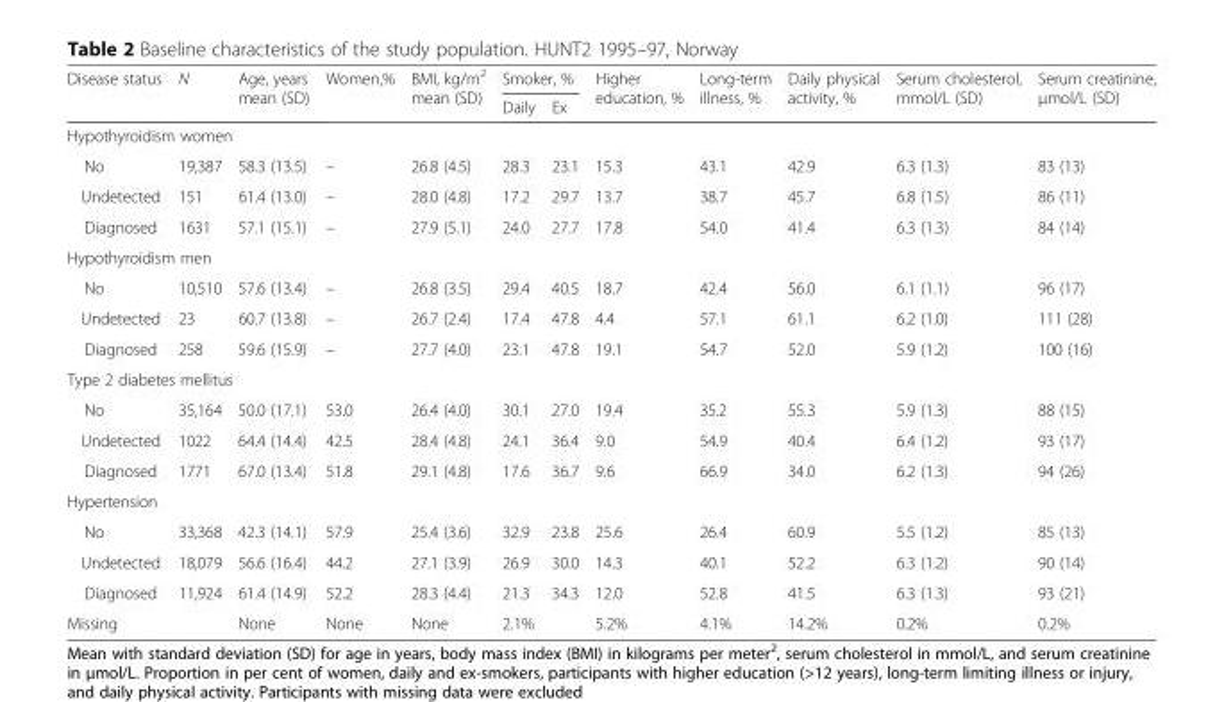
<table><thead><tr><td rowspan="2">Disease status</td><td rowspan="2">N</td><td rowspan="2">Age, years mean (SD)</td><td rowspan="2">Women,%</td><td rowspan="2">BMI, kg/m<sup>2</sup> mean (SD)</td><td colspan="2">Smoker, %</td><td rowspan="2">Higher education, %</td><td rowspan="2">Long-term illness, %</td><td rowspan="2">Daily physical activity, %</td><td rowspan="2">Serum cholesterol, mmol/L (SD)</td><td rowspan="2">Serum creatinine, μmol/L (SD)</td></tr><tr><td>Daily</td><td>Ex</td></tr></thead><tbody><tr><td colspan="12">Hypothyroidism women</td></tr><tr><td>No</td><td>19,387</td><td>58.3 (13.5)</td><td>–</td><td>26.8 (4.5)</td><td>28.3</td><td>23.1</td><td>15.3</td><td>43.1</td><td>42.9</td><td>6.3 (1.3)</td><td>83 (13)</td></tr><tr><td>Undetected</td><td>151</td><td>61.4 (13.0)</td><td>–</td><td>28.0 (4.8)</td><td>17.2</td><td>29.7</td><td>13.7</td><td>38.7</td><td>45.7</td><td>6.8 (1.5)</td><td>86 (11)</td></tr><tr><td>Diagnosed</td><td>1631</td><td>57.1 (15.1)</td><td>–</td><td>27.9 (5.1)</td><td>24.0</td><td>27.7</td><td>17.8</td><td>54.0</td><td>41.4</td><td>6.3 (1.3)</td><td>84 (14)</td></tr><tr><td colspan="12">Hypothyroidism men</td></tr><tr><td>No</td><td>10,510</td><td>57.6 (13.4)</td><td>–</td><td>26.8 (3.5)</td><td>29.4</td><td>40.5</td><td>18.7</td><td>42.4</td><td>56.0</td><td>6.1 (1.1)</td><td>96 (17)</td></tr><tr><td>Undetected</td><td>23</td><td>60.7 (13.8)</td><td>–</td><td>26.7 (2.4)</td><td>17.4</td><td>47.8</td><td>4.4</td><td>57.1</td><td>61.1</td><td>6.2 (1.0)</td><td>111 (28)</td></tr><tr><td>Diagnosed</td><td>258</td><td>59.6 (15.9)</td><td>–</td><td>27.7 (4.0)</td><td>23.1</td><td>47.8</td><td>19.1</td><td>54.7</td><td>52.0</td><td>5.9 (1.2)</td><td>100 (16)</td></tr><tr><td colspan="12">Type 2 diabetes mellitus</td></tr><tr><td>No</td><td>35,164</td><td>50.0 (17.1)</td><td>53.0</td><td>26.4 (4.0)</td><td>30.1</td><td>27.0</td><td>19.4</td><td>35.2</td><td>55.3</td><td>5.9 (1.3)</td><td>88 (15)</td></tr><tr><td>Undetected</td><td>1022</td><td>64.4 (14.4)</td><td>42.5</td><td>28.4 (4.8)</td><td>24.1</td><td>36.4</td><td>9.0</td><td>54.9</td><td>40.4</td><td>6.4 (1.2)</td><td>93 (17)</td></tr><tr><td>Diagnosed</td><td>1771</td><td>67.0 (13.4)</td><td>51.8</td><td>29.1 (4.8)</td><td>17.6</td><td>36.7</td><td>9.6</td><td>66.9</td><td>34.0</td><td>6.2 (1.3)</td><td>94 (26)</td></tr><tr><td colspan="12">Hypertension</td></tr><tr><td>No</td><td>33,368</td><td>42.3 (14.1)</td><td>57.9</td><td>25.4 (3.6)</td><td>32.9</td><td>23.8</td><td>25.6</td><td>26.4</td><td>60.9</td><td>5.5 (1.2)</td><td>85 (13)</td></tr><tr><td>Undetected</td><td>18,079</td><td>56.6 (16.4)</td><td>44.2</td><td>27.1 (3.9)</td><td>26.9</td><td>30.0</td><td>14.3</td><td>40.1</td><td>52.2</td><td>6.3 (1.2)</td><td>90 (14)</td></tr><tr><td>Diagnosed</td><td>11,924</td><td>61.4 (14.9)</td><td>52.2</td><td>28.3 (4.4)</td><td>21.3</td><td>34.3</td><td>12.0</td><td>52.8</td><td>41.5</td><td>6.3 (1.3)</td><td>93 (21)</td></tr><tr><td>Missing</td><td></td><td>None</td><td>None</td><td>None</td><td colspan="2">2.1%</td><td>5.2%</td><td>4.1%</td><td>14.2%</td><td>0.2%</td><td>0.2%</td></tr></tbody></table>